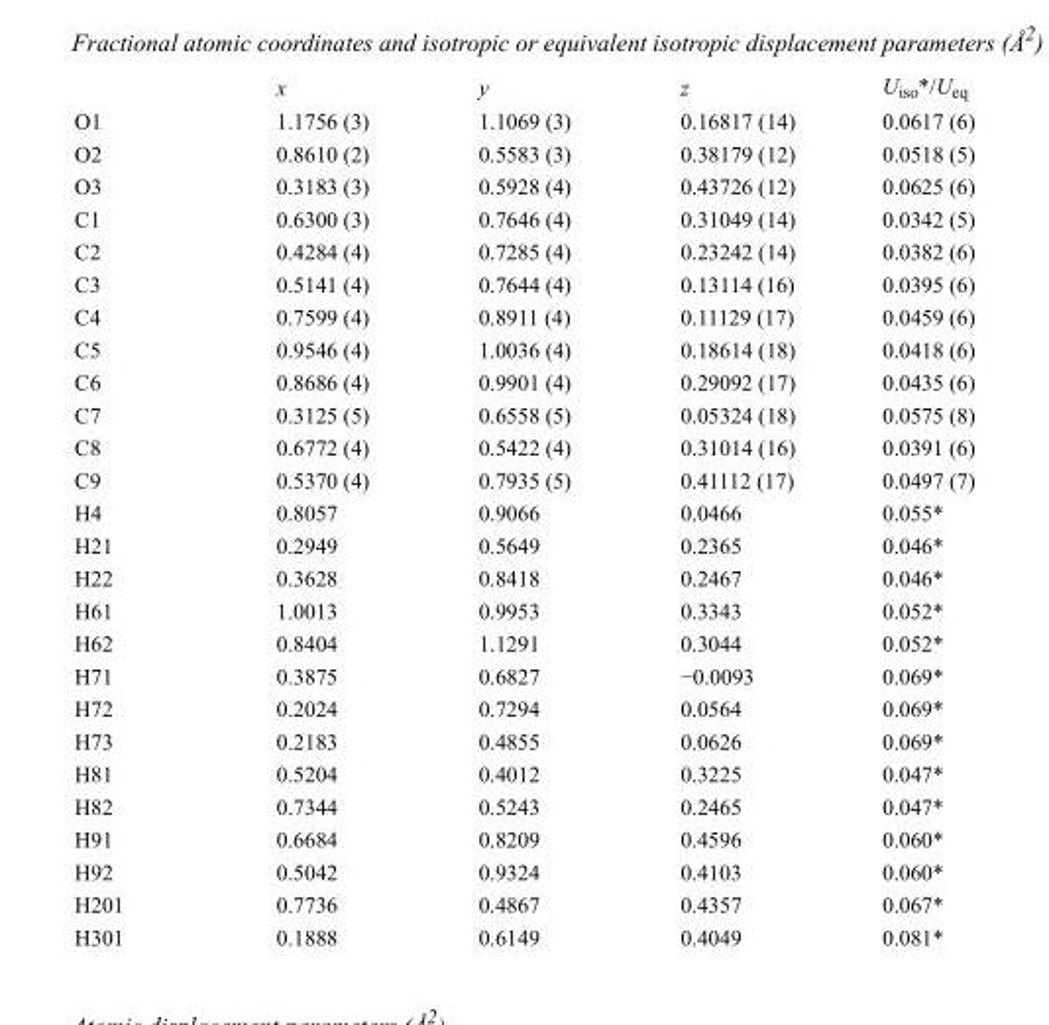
<table><thead><tr><td></td><td>x</td><td>y</td><td>z</td><td>U<sub>iso</sub>*/U<sub>eq</sub></td></tr></thead><tbody><tr><td>O1</td><td>1.1756 (3)</td><td>1.1069 (3)</td><td>0.16817 (14)</td><td>0.0617 (6)</td></tr><tr><td>O2</td><td>0.8610 (2)</td><td>0.5583 (3)</td><td>0.38179 (12)</td><td>0.0518 (5)</td></tr><tr><td>O3</td><td>0.3183 (3)</td><td>0.5928 (4)</td><td>0.43726 (12)</td><td>0.0625 (6)</td></tr><tr><td>C1</td><td>0.6300 (3)</td><td>0.7646 (4)</td><td>0.31049 (14)</td><td>0.0342 (5)</td></tr><tr><td>C2</td><td>0.4284 (4)</td><td>0.7285 (4)</td><td>0.23242 (14)</td><td>0.0382 (6)</td></tr><tr><td>C3</td><td>0.5141 (4)</td><td>0.7644 (4)</td><td>0.13114 (16)</td><td>0.0395 (6)</td></tr><tr><td>C4</td><td>0.7599 (4)</td><td>0.8911 (4)</td><td>0.11129 (17)</td><td>0.0459 (6)</td></tr><tr><td>C5</td><td>0.9546 (4)</td><td>1.0036 (4)</td><td>0.18614 (18)</td><td>0.0418 (6)</td></tr><tr><td>C6</td><td>0.8686 (4)</td><td>0.9901 (4)</td><td>0.29092 (17)</td><td>0.0435 (6)</td></tr><tr><td>C7</td><td>0.3125 (5)</td><td>0.6558 (5)</td><td>0.05324 (18)</td><td>0.0575 (8)</td></tr><tr><td>C8</td><td>0.6772 (4)</td><td>0.5422 (4)</td><td>0.31014 (16)</td><td>0.0391 (6)</td></tr><tr><td>C9</td><td>0.5370 (4)</td><td>0.7935 (5)</td><td>0.41112 (17)</td><td>0.0497 (7)</td></tr><tr><td>H4</td><td>0.8057</td><td>0.9066</td><td>0.0466</td><td>0.055*</td></tr><tr><td>H21</td><td>0.2949</td><td>0.5649</td><td>0.2365</td><td>0.046*</td></tr><tr><td>H22</td><td>0.3628</td><td>0.8418</td><td>0.2467</td><td>0.046*</td></tr><tr><td>H61</td><td>1.0013</td><td>0.9953</td><td>0.3343</td><td>0.052*</td></tr><tr><td>H62</td><td>0.8404</td><td>1.1291</td><td>0.3044</td><td>0.052*</td></tr><tr><td>H71</td><td>0.3875</td><td>0.6827</td><td>−0.0093</td><td>0.069*</td></tr><tr><td>H72</td><td>0.2024</td><td>0.7294</td><td>0.0564</td><td>0.069*</td></tr><tr><td>H73</td><td>0.2183</td><td>0.4855</td><td>0.0626</td><td>0.069*</td></tr><tr><td>H81</td><td>0.5204</td><td>0.4012</td><td>0.3225</td><td>0.047*</td></tr><tr><td>H82</td><td>0.7344</td><td>0.5243</td><td>0.2465</td><td>0.047*</td></tr><tr><td>H91</td><td>0.6684</td><td>0.8209</td><td>0.4596</td><td>0.060*</td></tr><tr><td>H92</td><td>0.5042</td><td>0.9324</td><td>0.4103</td><td>0.060*</td></tr><tr><td>H201</td><td>0.7736</td><td>0.4867</td><td>0.4357</td><td>0.067*</td></tr><tr><td>H301</td><td>0.1888</td><td>0.6149</td><td>0.4049</td><td>0.081*</td></tr></tbody></table>